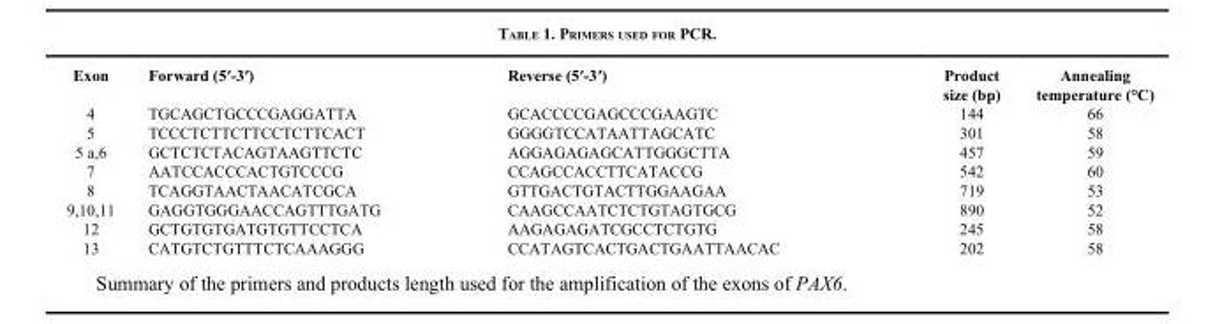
<table><thead><tr><td>Exon</td><td>Forward (5′-3′)</td><td>Reverse (5′-3′)</td><td>Product size (bp)</td><td>Annealing temperature (°C)</td></tr></thead><tbody><tr><td>4</td><td>TGCAGCTGCCCGAGGATTA</td><td>GCACCCCGAGCCCGAAGTC</td><td>144</td><td>66</td></tr><tr><td>5</td><td>TCCCTCTTCTTCCTCTTCACT</td><td>GGGGTCCATAATTAGCATC</td><td>301</td><td>58</td></tr><tr><td>5 a,6</td><td>GCTCTCTACAGTAAGTTCTC</td><td>AGGAGAGAGCATTGGGCTTA</td><td>457</td><td>59</td></tr><tr><td>7</td><td>AATCCACCCACTGTCCCG</td><td>CCAGCCACCTTCATACCG</td><td>542</td><td>60</td></tr><tr><td>8</td><td>TCAGGTAACTAACATCGCA</td><td>GTTGACTGTACTTGGAAGAA</td><td>719</td><td>53</td></tr><tr><td>9,10,11</td><td>GAGGTGGGAACCAGTTTGATG</td><td>CAAGCCAATCTCTGTAGTGCG</td><td>890</td><td>52</td></tr><tr><td>12</td><td>GCTGTGTGATGTGTTCCTCA</td><td>AAGAGAGATCGCCTCTGTG</td><td>245</td><td>58</td></tr><tr><td>13</td><td>CATGTCTGTTTCTCAAAGGG</td><td>CCATAGTCACTGACTGAATTAACAC</td><td>202</td><td>58</td></tr></tbody></table>